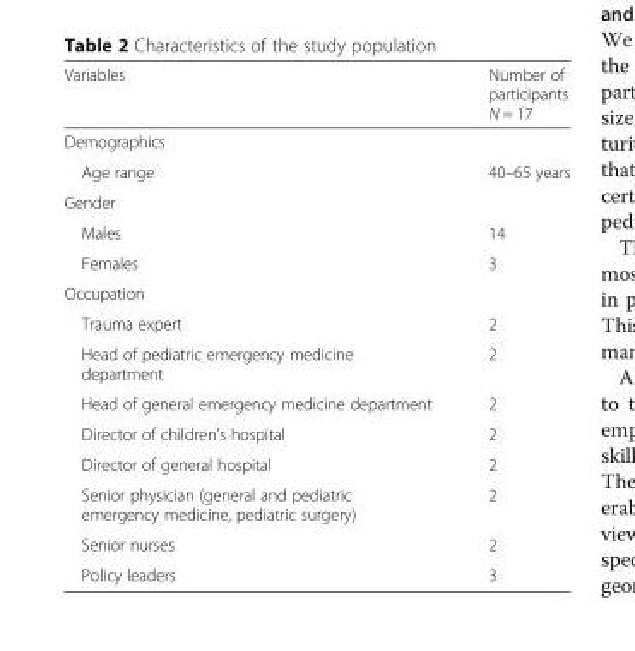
<table><thead><tr><td>Variables</td><td>Number of participants N = 17</td></tr></thead><tbody><tr><td colspan="2">Demographics</td></tr><tr><td>Age range</td><td>40–65 years</td></tr><tr><td colspan="2">Gender</td></tr><tr><td>Males</td><td>14</td></tr><tr><td>Females</td><td>3</td></tr><tr><td colspan="2">Occupation</td></tr><tr><td>Trauma expert</td><td>2</td></tr><tr><td>Head of pediatric emergency medicine department</td><td>2</td></tr><tr><td>Head of general emergency medicine department</td><td>2</td></tr><tr><td>Director of children’s hospital</td><td>2</td></tr><tr><td>Director of general hospital</td><td>2</td></tr><tr><td>Senior physician (general and pediatric emergency medicine, pediatric surgery)</td><td>2</td></tr><tr><td>Senior nurses</td><td>2</td></tr><tr><td>Policy leaders</td><td>3</td></tr></tbody></table>